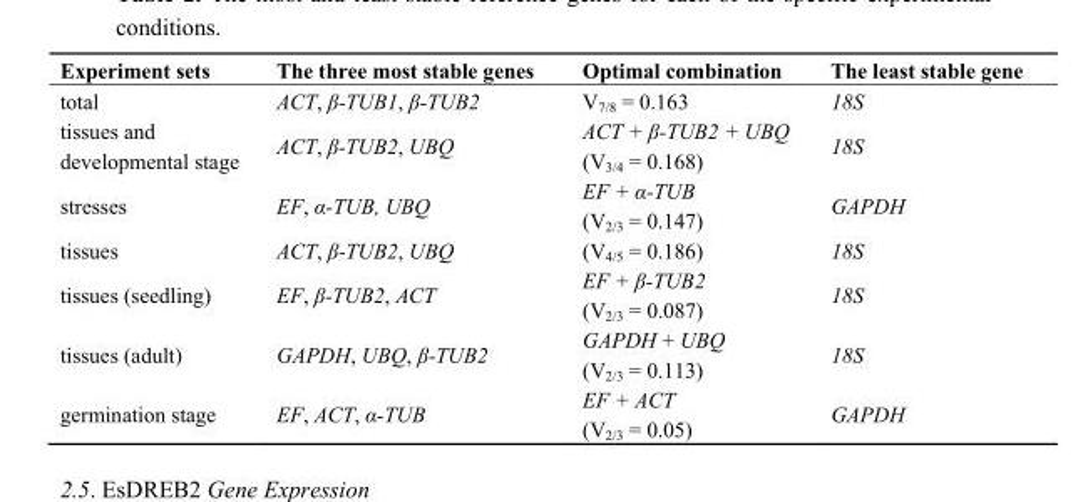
<table><thead><tr><td>Experiment sets</td><td>The three most stable genes</td><td>Optimal combination</td><td>The least stable gene</td></tr></thead><tbody><tr><td>total</td><td>ACT, β-TUB1, β-TUB2</td><td>V<sub>7/8</sub> = 0.163</td><td>18S</td></tr><tr><td>tissues and developmental stage</td><td>ACT, β-TUB2, UBQ</td><td>ACT + β-TUB2 + UBQ (V<sub>3/4</sub> = 0.168)</td><td>18S</td></tr><tr><td>stresses</td><td>EF, α-TUB, UBQ</td><td>EF + α-TUB (V<sub>2/3</sub> = 0.147)</td><td>GAPDH</td></tr><tr><td>tissues</td><td>ACT, β-TUB2, UBQ</td><td>(V<sub>4/5</sub> = 0.186)</td><td>18S</td></tr><tr><td>tissues (seedling)</td><td>EF, β-TUB2, ACT</td><td>EF + β-TUB2 (V<sub>2/3</sub> = 0.087)</td><td>18S</td></tr><tr><td>tissues (adult)</td><td>GAPDH, UBQ, β-TUB2</td><td>GAPDH + UBQ (V<sub>2/3</sub> = 0.113)</td><td>18S</td></tr><tr><td>germination stage</td><td>EF, ACT, α-TUB</td><td>EF + ACT (V<sub>2/3</sub> = 0.05)</td><td>GAPDH</td></tr></tbody></table>